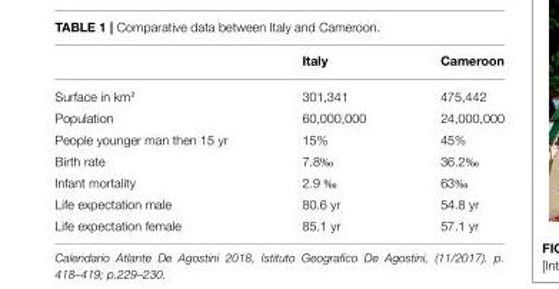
<table><thead><tr><td></td><td>Italy</td><td>Cameroon</td></tr></thead><tbody><tr><td>Surface in km²</td><td>301,341</td><td>475,442</td></tr><tr><td>Population</td><td>60,000,000</td><td>24,000,000</td></tr><tr><td>People younger man then 15 yr</td><td>15%</td><td>45%</td></tr><tr><td>Birth rate</td><td>7.8‰</td><td>36.2‰</td></tr><tr><td>Infant mortality</td><td>2.9 ‰</td><td>63‰</td></tr><tr><td>Life expectation male</td><td>80.6 yr</td><td>54.8 yr</td></tr><tr><td>Life expectation female</td><td>85.1 yr</td><td>57.1 yr</td></tr></tbody></table>